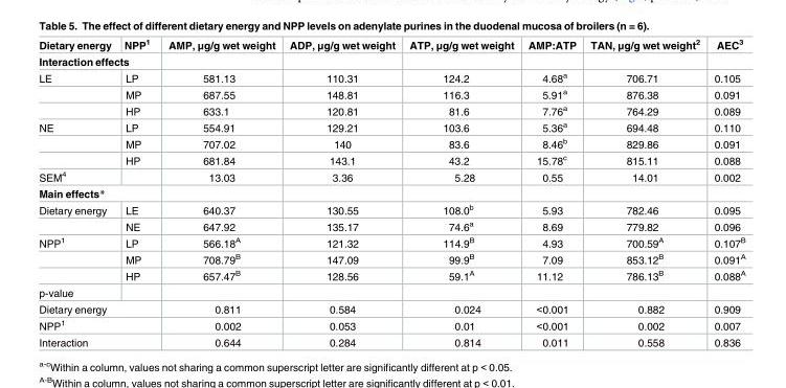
<table><thead><tr><td>Dietary energy</td><td>NPP<sup>1</sup></td><td>AMP, μg/g wet weight</td><td>ADP, μg/g wet weight</td><td>ATP, μg/g wet weight</td><td>AMP:ATP</td><td>TAN, μg/g wet weight<sup>2</sup></td><td>AEC<sup>3</sup></td></tr></thead><tbody><tr><td colspan="8">Interaction effects</td></tr><tr><td rowspan="3">LE</td><td>LP</td><td>581.13</td><td>110.31</td><td>124.2</td><td>4.68<sup>a</sup></td><td>706.71</td><td>0.105</td></tr><tr><td>MP</td><td>687.55</td><td>148.81</td><td>116.3</td><td>5.91<sup>a</sup></td><td>876.38</td><td>0.091</td></tr><tr><td>HP</td><td>633.1</td><td>120.81</td><td>81.6</td><td>7.76<sup>a</sup></td><td>764.29</td><td>0.089</td></tr><tr><td rowspan="3">NE</td><td>LP</td><td>554.91</td><td>129.21</td><td>103.6</td><td>5.36<sup>a</sup></td><td>694.48</td><td>0.110</td></tr><tr><td>MP</td><td>707.02</td><td>140</td><td>83.6</td><td>8.46<sup>b</sup></td><td>829.86</td><td>0.091</td></tr><tr><td>HP</td><td>681.84</td><td>143.1</td><td>43.2</td><td>15.78<sup>c</sup></td><td>815.11</td><td>0.088</td></tr><tr><td>SEM<sup>4</sup></td><td></td><td>13.03</td><td>3.36</td><td>5.28</td><td>0.55</td><td>14.01</td><td>0.002</td></tr><tr><td colspan="8">Main effects*</td></tr><tr><td rowspan="2">Dietary energy</td><td>LE</td><td>640.37</td><td>130.55</td><td>108.0<sup>b</sup></td><td>5.93</td><td>782.46</td><td>0.095</td></tr><tr><td>NE</td><td>647.92</td><td>135.17</td><td>74.6<sup>a</sup></td><td>8.69</td><td>779.82</td><td>0.096</td></tr><tr><td rowspan="3">NPP<sup>1</sup></td><td>LP</td><td>566.18<sup>A</sup></td><td>121.32</td><td>114.9<sup>B</sup></td><td>4.93</td><td>700.59<sup>A</sup></td><td>0.107<sup>B</sup></td></tr><tr><td>MP</td><td>708.79<sup>B</sup></td><td>147.09</td><td>99.9<sup>B</sup></td><td>7.09</td><td>853.12<sup>B</sup></td><td>0.091<sup>A</sup></td></tr><tr><td>HP</td><td>657.47<sup>B</sup></td><td>128.56</td><td>59.1<sup>A</sup></td><td>11.12</td><td>786.13<sup>B</sup></td><td>0.088<sup>A</sup></td></tr><tr><td colspan="8">p-value</td></tr><tr><td colspan="2">Dietary energy</td><td>0.811</td><td>0.584</td><td>0.024</td><td>&lt;0.001</td><td>0.882</td><td>0.909</td></tr><tr><td colspan="2">NPP<sup>1</sup></td><td>0.002</td><td>0.053</td><td>0.01</td><td>&lt;0.001</td><td>0.002</td><td>0.007</td></tr><tr><td colspan="2">Interaction</td><td>0.644</td><td>0.284</td><td>0.814</td><td>0.011</td><td>0.558</td><td>0.836</td></tr></tbody></table>